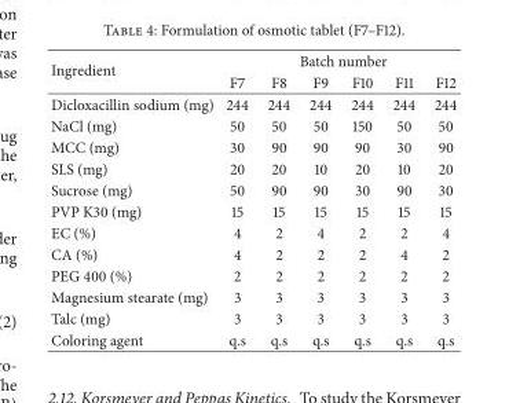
<table><thead><tr><td rowspan="2">Ingredient</td><td colspan="6">Batch number</td></tr><tr><td>F7</td><td>F8</td><td>F9</td><td>F10</td><td>F11</td><td>F12</td></tr></thead><tbody><tr><td>Dicloxacillin sodium (mg)</td><td>244</td><td>244</td><td>244</td><td>244</td><td>244</td><td>244</td></tr><tr><td>NaCl (mg)</td><td>50</td><td>50</td><td>50</td><td>150</td><td>50</td><td>50</td></tr><tr><td>MCC (mg)</td><td>30</td><td>90</td><td>90</td><td>90</td><td>30</td><td>90</td></tr><tr><td>SLS (mg)</td><td>20</td><td>20</td><td>10</td><td>20</td><td>10</td><td>20</td></tr><tr><td>Sucrose (mg)</td><td>50</td><td>90</td><td>90</td><td>30</td><td>90</td><td>30</td></tr><tr><td>PVP K30 (mg)</td><td>15</td><td>15</td><td>15</td><td>15</td><td>15</td><td>15</td></tr><tr><td>EC (%)</td><td>4</td><td>2</td><td>4</td><td>2</td><td>2</td><td>4</td></tr><tr><td>CA (%)</td><td>4</td><td>2</td><td>2</td><td>2</td><td>4</td><td>2</td></tr><tr><td>PEG 400 (%)</td><td>2</td><td>2</td><td>2</td><td>2</td><td>2</td><td>2</td></tr><tr><td>Magnesium stearate (mg)</td><td>3</td><td>3</td><td>3</td><td>3</td><td>3</td><td>3</td></tr><tr><td>Talc (mg)</td><td>3</td><td>3</td><td>3</td><td>3</td><td>3</td><td>3</td></tr><tr><td>Coloring agent</td><td>q.s</td><td>q.s</td><td>q.s</td><td>q.s</td><td>q.s</td><td>q.s</td></tr></tbody></table>